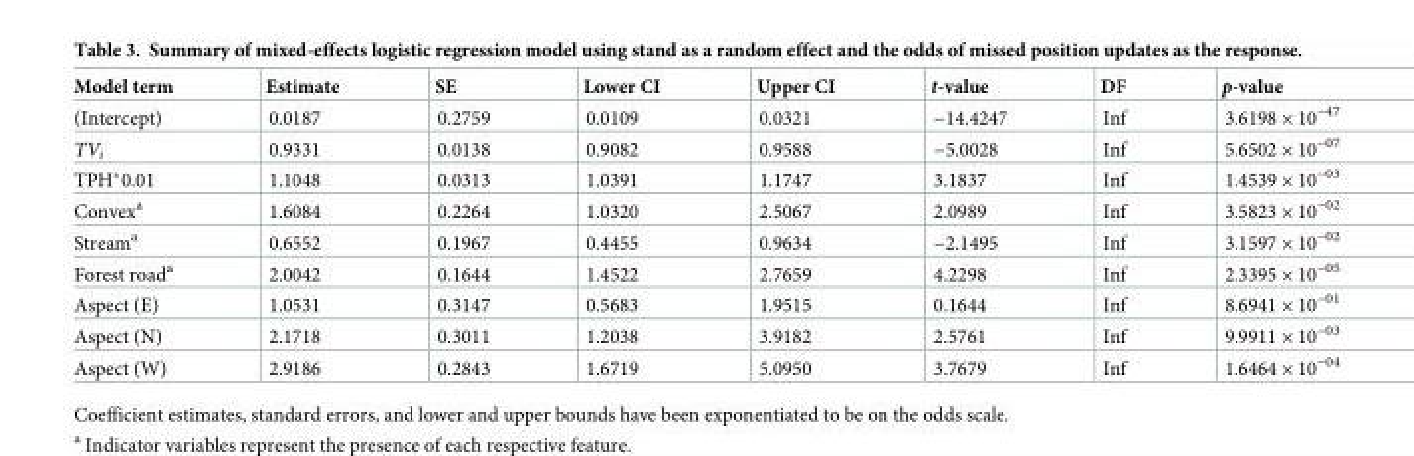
<table><thead><tr><td>Model term</td><td>Estimate</td><td>SE</td><td>Lower CI</td><td>Upper CI</td><td>t-value</td><td>DF</td><td>p-value</td></tr></thead><tbody><tr><td>(Intercept)</td><td>0.0187</td><td>0.2759</td><td>0.0109</td><td>0.0321</td><td>−14.4247</td><td>Inf</td><td>3.6198 × 10<sup>−47</sup></td></tr><tr><td>TV<sub>i</sub></td><td>0.9331</td><td>0.0138</td><td>0.9082</td><td>0.9588</td><td>−5.0028</td><td>Inf</td><td>5.6502 × 10<sup>−07</sup></td></tr><tr><td>TPH*0.01</td><td>1.1048</td><td>0.0313</td><td>1.0391</td><td>1.1747</td><td>3.1837</td><td>Inf</td><td>1.4539 × 10<sup>−03</sup></td></tr><tr><td>Convex<sup>a</sup></td><td>1.6084</td><td>0.2264</td><td>1.0320</td><td>2.5067</td><td>2.0989</td><td>Inf</td><td>3.5823 × 10<sup>−02</sup></td></tr><tr><td>Stream<sup>a</sup></td><td>0.6552</td><td>0.1967</td><td>0.4455</td><td>0.9634</td><td>−2.1495</td><td>Inf</td><td>3.1597 × 10<sup>−02</sup></td></tr><tr><td>Forest road<sup>a</sup></td><td>2.0042</td><td>0.1644</td><td>1.4522</td><td>2.7659</td><td>4.2298</td><td>Inf</td><td>2.3395 × 10<sup>−05</sup></td></tr><tr><td>Aspect (E)</td><td>1.0531</td><td>0.3147</td><td>0.5683</td><td>1.9515</td><td>0.1644</td><td>Inf</td><td>8.6941 × 10<sup>−01</sup></td></tr><tr><td>Aspect (N)</td><td>2.1718</td><td>0.3011</td><td>1.2038</td><td>3.9182</td><td>2.5761</td><td>Inf</td><td>9.9911 × 10<sup>−03</sup></td></tr><tr><td>Aspect (W)</td><td>2.9186</td><td>0.2843</td><td>1.6719</td><td>5.0950</td><td>3.7679</td><td>Inf</td><td>1.6464 × 10<sup>−04</sup></td></tr></tbody></table>